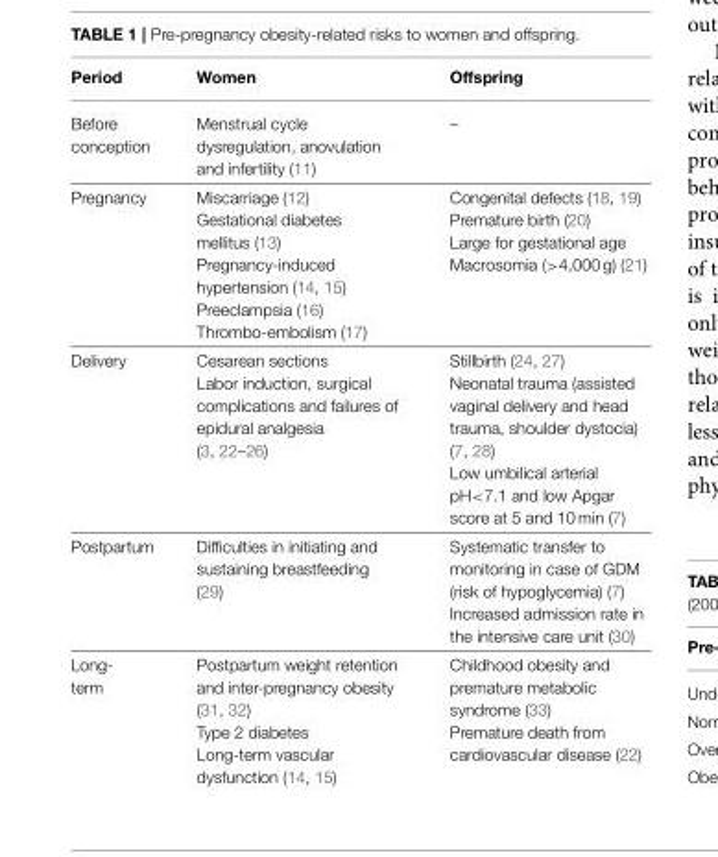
<table><thead><tr><td>Period</td><td>Women</td><td>Offspring</td></tr></thead><tbody><tr><td>Before conception</td><td>Menstrual cycle dysregulation, anovulation and infertility (11)</td><td>–</td></tr><tr><td>Pregnancy</td><td>Miscarriage (12) Gestational diabetes mellitus (13) Pregnancy-induced hypertension (14, 15) Preeclampsia (16) Thrombo-embolism (17)</td><td>Congenital defects (18, 19) Premature birth (20) Large for gestational age Macrosomia (&gt;4,000 g) (21)</td></tr><tr><td>Delivery</td><td>Cesarean sections Labor induction, surgical complications and failures of epidural analgesia (3, 22–26)</td><td>Stillbirth (24, 27) Neonatal trauma (assisted vaginal delivery and head trauma, shoulder dystocia) (7, 28) Low umbilical arterial pH&lt;7.1 and low Apgar score at 5 and 10 min (7)</td></tr><tr><td>Postpartum</td><td>Difficulties in initiating and sustaining breastfeeding (29)</td><td>Systematic transfer to monitoring in case of GDM (risk of hypoglycemia) (7) Increased admission rate in the intensive care unit (30)</td></tr><tr><td>Long- term</td><td>Postpartum weight retention and inter-pregnancy obesity (31, 32) Type 2 diabetes Long-term vascular dysfunction (14, 15)</td><td>Childhood obesity and premature metabolic syndrome (33) Premature death from cardiovascular disease (22)</td></tr></tbody></table>